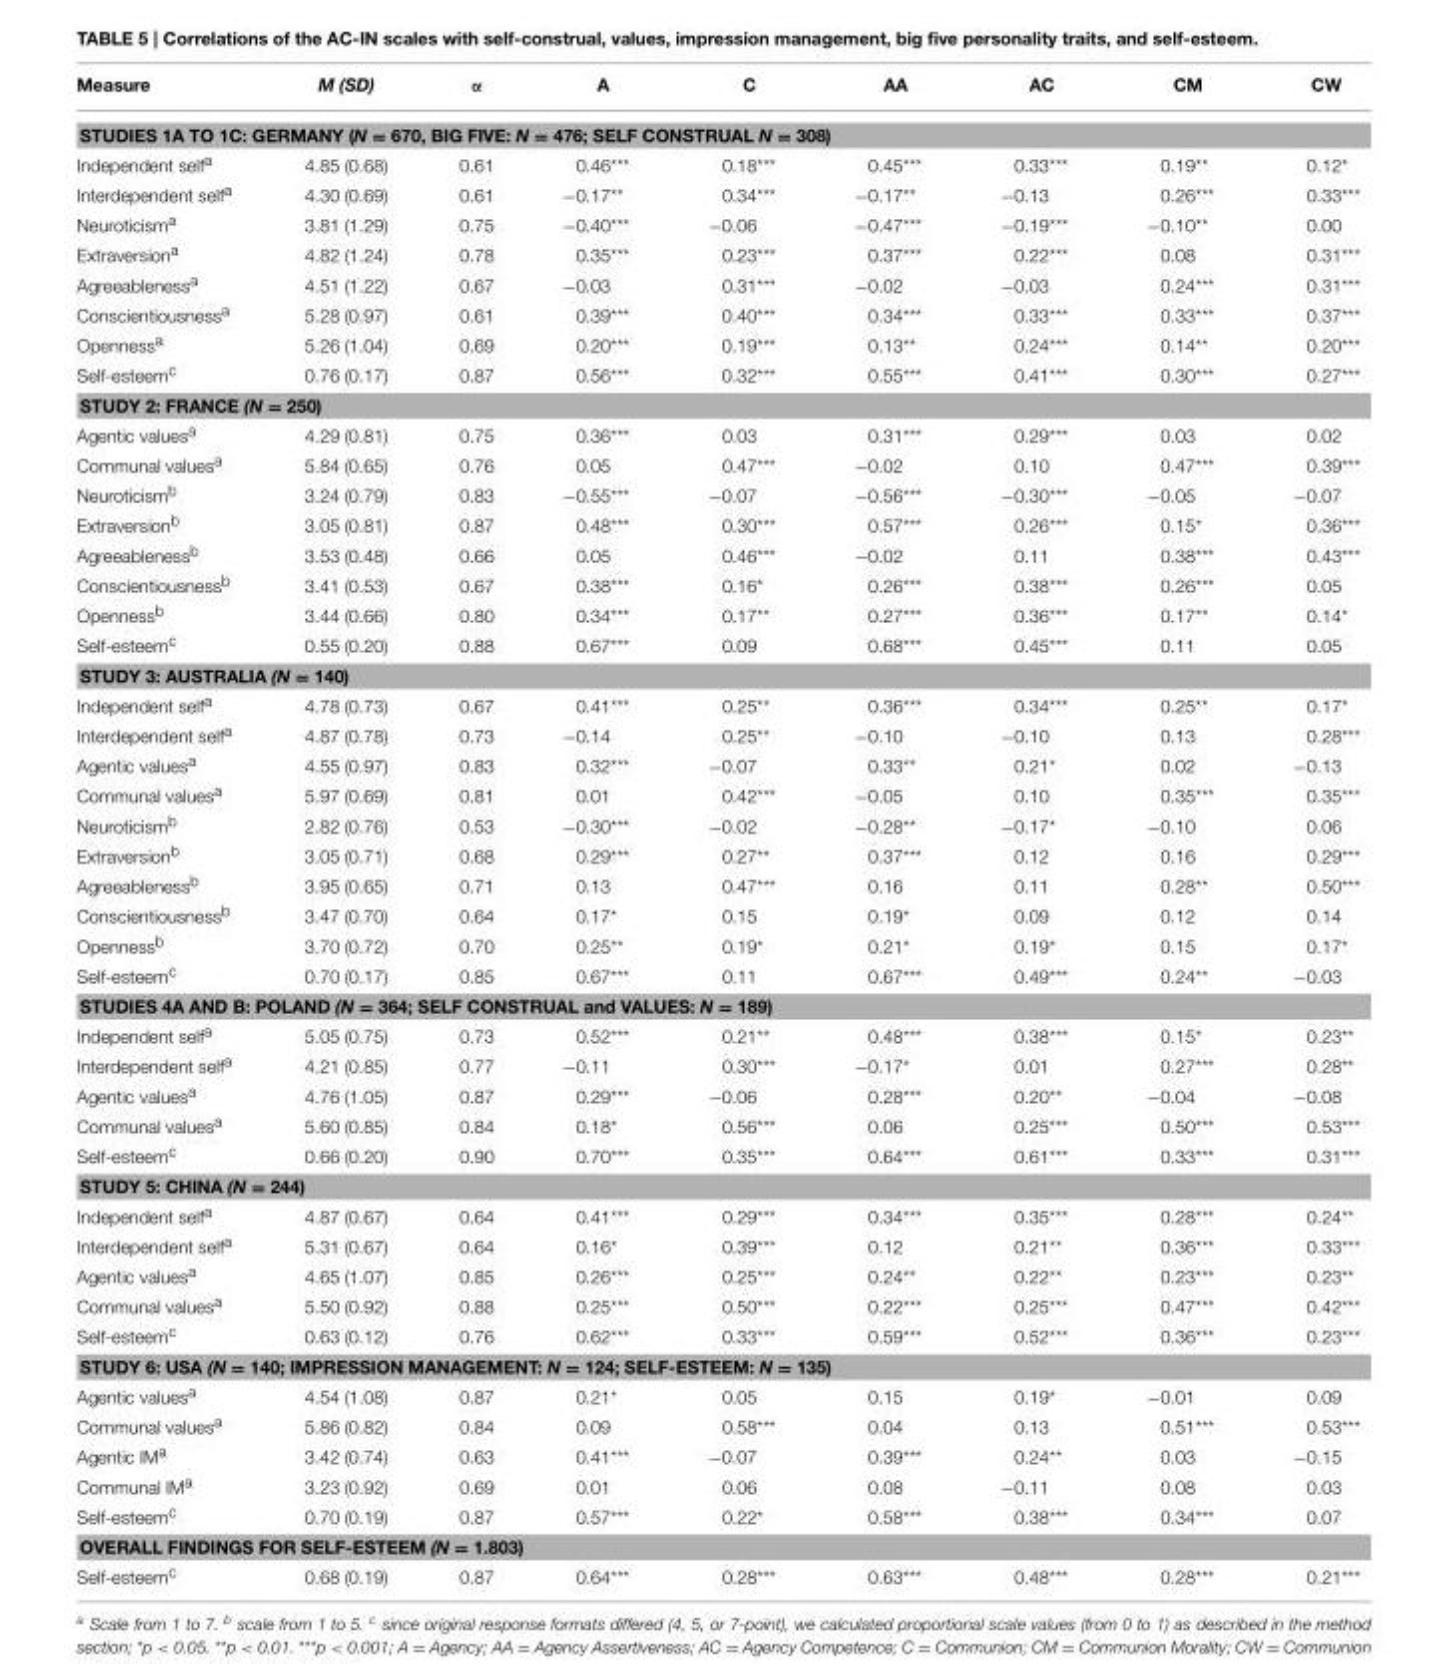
<table><thead><tr><td>Measure</td><td>M (SD)</td><td>α</td><td>A</td><td>C</td><td>AA</td><td>AC</td><td>CM</td><td>CW</td></tr></thead><tbody><tr><td colspan="9">STUDIES 1A TO 1C: GERMANY (N = 670, BIG FIVE: N = 476; SELF CONSTRUAL N = 308)</td></tr><tr><td>Independent self<sup>a</sup></td><td>4.85 (0.68)</td><td>0.61</td><td>0.46***</td><td>0.18***</td><td>0.45***</td><td>0.33***</td><td>0.19**</td><td>0.12*</td></tr><tr><td>Interdependent self<sup>a</sup></td><td>4.30 (0.69)</td><td>0.61</td><td>−0.17**</td><td>0.34***</td><td>−0.17**</td><td>−0.13</td><td>0.26***</td><td>0.33***</td></tr><tr><td>Neuroticism<sup>a</sup></td><td>3.81 (1.29)</td><td>0.75</td><td>−0.40***</td><td>−0.06</td><td>−0.47***</td><td>−0.19***</td><td>−0.10**</td><td>0.00</td></tr><tr><td>Extraversion<sup>a</sup></td><td>4.82 (1.24)</td><td>0.78</td><td>0.35***</td><td>0.23***</td><td>0.37***</td><td>0.22***</td><td>0.08</td><td>0.31***</td></tr><tr><td>Agreeableness<sup>a</sup></td><td>4.51 (1.22)</td><td>0.67</td><td>−0.03</td><td>0.31***</td><td>−0.02</td><td>−0.03</td><td>0.24***</td><td>0.31***</td></tr><tr><td>Conscientiousness<sup>a</sup></td><td>5.28 (0.97)</td><td>0.61</td><td>0.39***</td><td>0.40***</td><td>0.34***</td><td>0.33***</td><td>0.33***</td><td>0.37***</td></tr><tr><td>Openness<sup>a</sup></td><td>5.26 (1.04)</td><td>0.69</td><td>0.20***</td><td>0.19***</td><td>0.13**</td><td>0.24***</td><td>0.14**</td><td>0.20***</td></tr><tr><td>Self-esteem<sup>c</sup></td><td>0.76 (0.17)</td><td>0.87</td><td>0.56***</td><td>0.32***</td><td>0.55***</td><td>0.41***</td><td>0.30***</td><td>0.27***</td></tr><tr><td colspan="9">STUDY 2: FRANCE (N = 250)</td></tr><tr><td>Agentic values<sup>a</sup></td><td>4.29 (0.81)</td><td>0.75</td><td>0.36***</td><td>0.03</td><td>0.31***</td><td>0.29***</td><td>0.03</td><td>0.02</td></tr><tr><td>Communal values<sup>a</sup></td><td>5.84 (0.65)</td><td>0.76</td><td>0.05</td><td>0.47***</td><td>−0.02</td><td>0.10</td><td>0.47***</td><td>0.39***</td></tr><tr><td>Neuroticism<sup>b</sup></td><td>3.24 (0.79)</td><td>0.83</td><td>−0.55***</td><td>−0.07</td><td>−0.56***</td><td>−0.30***</td><td>−0.05</td><td>−0.07</td></tr><tr><td>Extraversion<sup>b</sup></td><td>3.05 (0.81)</td><td>0.87</td><td>0.48***</td><td>0.30***</td><td>0.57***</td><td>0.26***</td><td>0.15*</td><td>0.36***</td></tr><tr><td>Agreeableness<sup>b</sup></td><td>3.53 (0.48)</td><td>0.66</td><td>0.05</td><td>0.46***</td><td>−0.02</td><td>0.11</td><td>0.38***</td><td>0.43***</td></tr><tr><td>Conscientiousness<sup>b</sup></td><td>3.41 (0.53)</td><td>0.67</td><td>0.38***</td><td>0.16*</td><td>0.26***</td><td>0.38***</td><td>0.26***</td><td>0.05</td></tr><tr><td>Openness<sup>b</sup></td><td>3.44 (0.66)</td><td>0.80</td><td>0.34***</td><td>0.17**</td><td>0.27***</td><td>0.36***</td><td>0.17**</td><td>0.14*</td></tr><tr><td>Self-esteem<sup>c</sup></td><td>0.55 (0.20)</td><td>0.88</td><td>0.67***</td><td>0.09</td><td>0.68***</td><td>0.45***</td><td>0.11</td><td>0.05</td></tr><tr><td colspan="9">STUDY 3: AUSTRALIA (N = 140)</td></tr><tr><td>Independent self<sup>a</sup></td><td>4.78 (0.73)</td><td>0.67</td><td>0.41***</td><td>0.25**</td><td>0.36***</td><td>0.34***</td><td>0.25**</td><td>0.17*</td></tr><tr><td>Interdependent self<sup>a</sup></td><td>4.87 (0.78)</td><td>0.73</td><td>−0.14</td><td>0.25**</td><td>−0.10</td><td>−0.10</td><td>0.13</td><td>0.28***</td></tr><tr><td>Agentic values<sup>a</sup></td><td>4.55 (0.97)</td><td>0.83</td><td>0.32***</td><td>−0.07</td><td>0.33**</td><td>0.21*</td><td>0.02</td><td>−0.13</td></tr><tr><td>Communal values<sup>a</sup></td><td>5.97 (0.69)</td><td>0.81</td><td>0.01</td><td>0.42***</td><td>−0.05</td><td>0.10</td><td>0.35***</td><td>0.35***</td></tr><tr><td>Neuroticism<sup>b</sup></td><td>2.82 (0.76)</td><td>0.53</td><td>−0.30***</td><td>−0.02</td><td>−0.28**</td><td>−0.17*</td><td>−0.10</td><td>0.06</td></tr><tr><td>Extraversion<sup>b</sup></td><td>3.05 (0.71)</td><td>0.68</td><td>0.29***</td><td>0.27**</td><td>0.37***</td><td>0.12</td><td>0.16</td><td>0.29***</td></tr><tr><td>Agreeableness<sup>b</sup></td><td>3.95 (0.65)</td><td>0.71</td><td>0.13</td><td>0.47***</td><td>0.16</td><td>0.11</td><td>0.28**</td><td>0.50***</td></tr><tr><td>Conscientiousness<sup>b</sup></td><td>3.47 (0.70)</td><td>0.64</td><td>0.17*</td><td>0.15</td><td>0.19*</td><td>0.09</td><td>0.12</td><td>0.14</td></tr><tr><td>Openness<sup>b</sup></td><td>3.70 (0.72)</td><td>0.70</td><td>0.25**</td><td>0.19*</td><td>0.21*</td><td>0.19*</td><td>0.15</td><td>0.17*</td></tr><tr><td>Self-esteem<sup>c</sup></td><td>0.70 (0.17)</td><td>0.85</td><td>0.67***</td><td>0.11</td><td>0.67***</td><td>0.49***</td><td>0.24**</td><td>−0.03</td></tr><tr><td colspan="9">STUDIES 4A AND B: POLAND (N = 364; SELF CONSTRUAL and VALUES: N = 189)</td></tr><tr><td>Independent self<sup>a</sup></td><td>5.05 (0.75)</td><td>0.73</td><td>0.52***</td><td>0.21**</td><td>0.48***</td><td>0.38***</td><td>0.15*</td><td>0.23**</td></tr><tr><td>Interdependent self<sup>a</sup></td><td>4.21 (0.85)</td><td>0.77</td><td>−0.11</td><td>0.30***</td><td>−0.17*</td><td>0.01</td><td>0.27***</td><td>0.28**</td></tr><tr><td>Agentic values<sup>a</sup></td><td>4.76 (1.05)</td><td>0.87</td><td>0.29***</td><td>−0.06</td><td>0.28***</td><td>0.20**</td><td>−0.04</td><td>−0.08</td></tr><tr><td>Communal values<sup>a</sup></td><td>5.60 (0.85)</td><td>0.84</td><td>0.18*</td><td>0.56***</td><td>0.06</td><td>0.25***</td><td>0.50***</td><td>0.53***</td></tr><tr><td>Self-esteem<sup>c</sup></td><td>0.66 (0.20)</td><td>0.90</td><td>0.70***</td><td>0.35***</td><td>0.64***</td><td>0.61***</td><td>0.33***</td><td>0.31***</td></tr><tr><td colspan="9">STUDY 5: CHINA (N = 244)</td></tr><tr><td>Independent self<sup>a</sup></td><td>4.87 (0.67)</td><td>0.64</td><td>0.41***</td><td>0.29***</td><td>0.34***</td><td>0.35***</td><td>0.28***</td><td>0.24**</td></tr><tr><td>Interdependent self<sup>a</sup></td><td>5.31 (0.67)</td><td>0.64</td><td>0.16*</td><td>0.39***</td><td>0.12</td><td>0.21**</td><td>0.36***</td><td>0.33***</td></tr><tr><td>Agentic values<sup>a</sup></td><td>4.65 (1.07)</td><td>0.85</td><td>0.26***</td><td>0.25***</td><td>0.24**</td><td>0.22**</td><td>0.23***</td><td>0.23**</td></tr><tr><td>Communal values<sup>a</sup></td><td>5.50 (0.92)</td><td>0.88</td><td>0.25***</td><td>0.50***</td><td>0.22***</td><td>0.25***</td><td>0.47***</td><td>0.42***</td></tr><tr><td>Self-esteem<sup>c</sup></td><td>0.63 (0.12)</td><td>0.76</td><td>0.62***</td><td>0.33***</td><td>0.59***</td><td>0.52***</td><td>0.36***</td><td>0.23***</td></tr><tr><td colspan="9">STUDY 6: USA (N = 140; IMPRESSION MANAGEMENT: N = 124; SELF-ESTEEM: N = 135)</td></tr><tr><td>Agentic values<sup>a</sup></td><td>4.54 (1.08)</td><td>0.87</td><td>0.21*</td><td>0.05</td><td>0.15</td><td>0.19*</td><td>−0.01</td><td>0.09</td></tr><tr><td>Communal values<sup>a</sup></td><td>5.86 (0.82)</td><td>0.84</td><td>0.09</td><td>0.58***</td><td>0.04</td><td>0.13</td><td>0.51***</td><td>0.53***</td></tr><tr><td>Agentic IM<sup>a</sup></td><td>3.42 (0.74)</td><td>0.63</td><td>0.41***</td><td>−0.07</td><td>0.39***</td><td>0.24**</td><td>0.03</td><td>−0.15</td></tr><tr><td>Communal IM<sup>a</sup></td><td>3.23 (0.92)</td><td>0.69</td><td>0.01</td><td>0.06</td><td>0.08</td><td>−0.11</td><td>0.08</td><td>0.03</td></tr><tr><td>Self-esteem<sup>c</sup></td><td>0.70 (0.19)</td><td>0.87</td><td>0.57***</td><td>0.22*</td><td>0.58***</td><td>0.38***</td><td>0.34***</td><td>0.07</td></tr><tr><td colspan="9">OVERALL FINDINGS FOR SELF-ESTEEM (N = 1.803)</td></tr><tr><td>Self-esteem<sup>c</sup></td><td>0.68 (0.19)</td><td>0.87</td><td>0.64***</td><td>0.28***</td><td>0.63***</td><td>0.48***</td><td>0.28***</td><td>0.21***</td></tr></tbody></table>